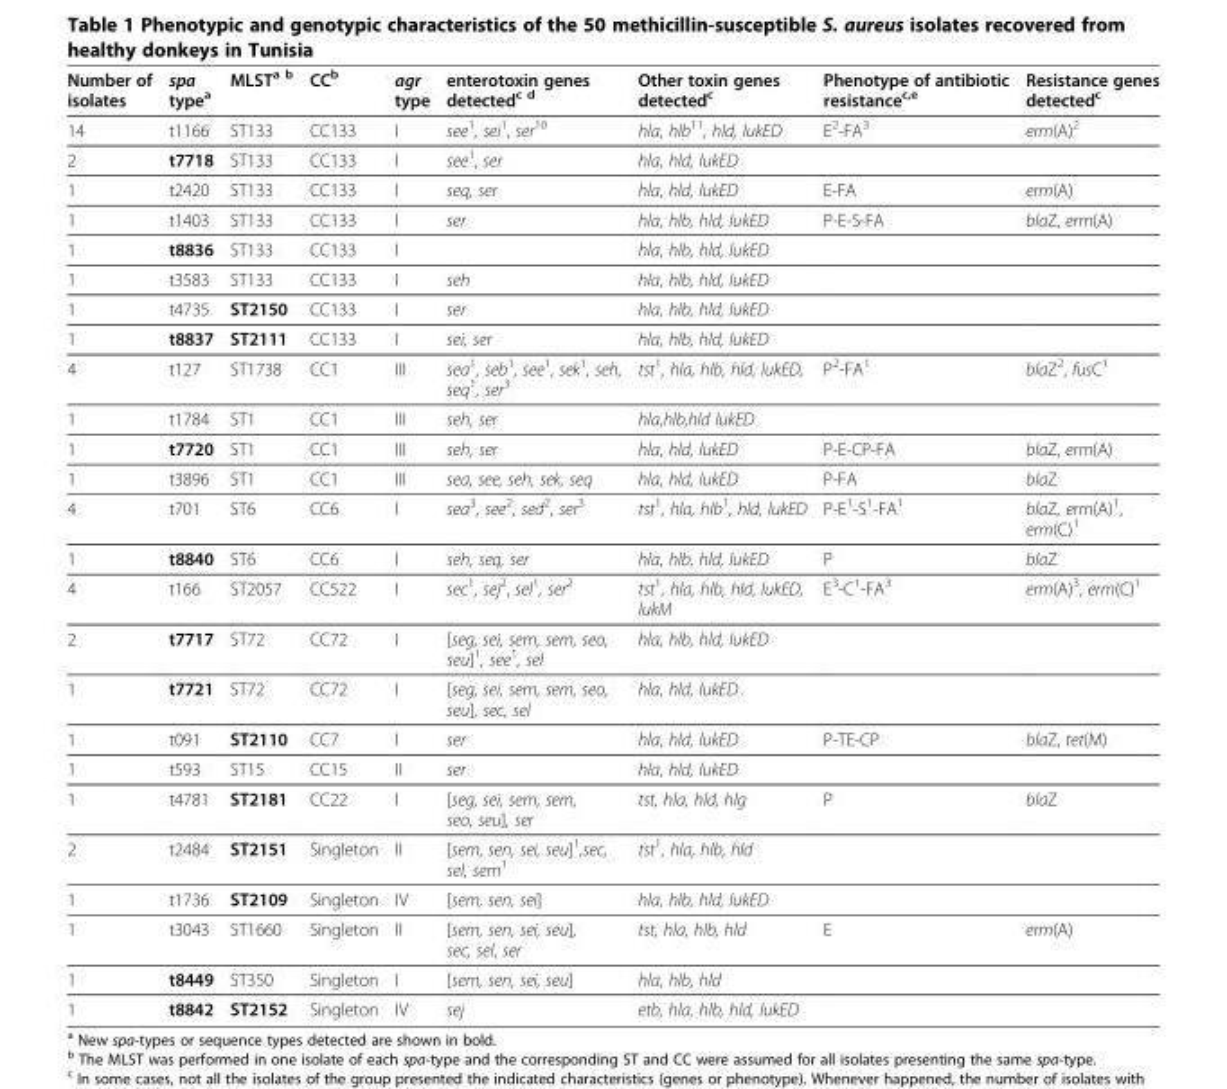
<table><thead><tr><td>Number of isolates</td><td>spa type<sup>a</sup></td><td>MLST<sup>a b</sup></td><td>CC<sup>b</sup></td><td>agr type</td><td>enterotoxin genes detected<sup>c d</sup></td><td>Other toxin genes detected<sup>c</sup></td><td>Phenotype of antibiotic resistance<sup>c,e</sup></td><td>Resistance genes detected<sup>c</sup></td></tr></thead><tbody><tr><td>14</td><td>t1166</td><td>ST133</td><td>CC133</td><td>I</td><td>see<sup>1</sup>, sei<sup>1</sup>, ser<sup>10</sup></td><td>hla, hlb<sup>11</sup>, hld, lukED</td><td>E<sup>2</sup>-FA<sup>3</sup></td><td>erm(A)<sup>2</sup></td></tr><tr><td>2</td><td>t7718</td><td>ST133</td><td>CC133</td><td>I</td><td>see<sup>1</sup>, ser</td><td>hla, hld, lukED</td><td></td><td></td></tr><tr><td>1</td><td>t2420</td><td>ST133</td><td>CC133</td><td>I</td><td>seq, ser</td><td>hla, hld, lukED</td><td>E-FA</td><td>erm(A)</td></tr><tr><td>1</td><td>t1403</td><td>ST133</td><td>CC133</td><td>I</td><td>ser</td><td>hla, hlb, hld, lukED</td><td>P-E-S-FA</td><td>blaZ, erm(A)</td></tr><tr><td>1</td><td>t8836</td><td>ST133</td><td>CC133</td><td>I</td><td></td><td>hla, hlb, hld, lukED</td><td></td><td></td></tr><tr><td>1</td><td>t3583</td><td>ST133</td><td>CC133</td><td>I</td><td>seh</td><td>hla, hlb, hld, lukED</td><td></td><td></td></tr><tr><td>1</td><td>t4735</td><td>ST2150</td><td>CC133</td><td>I</td><td>ser</td><td>hla, hlb, hld, lukED</td><td></td><td></td></tr><tr><td>1</td><td>t8837</td><td>ST2111</td><td>CC133</td><td>I</td><td>sei, ser</td><td>hla, hlb, hld, lukED</td><td></td><td></td></tr><tr><td>4</td><td>t127</td><td>ST1738</td><td>CC1</td><td>III</td><td>sea<sup>1</sup>, seb<sup>1</sup>, see<sup>1</sup>, sek<sup>1</sup>, seh, seq<sup>1</sup>, ser<sup>3</sup></td><td>tst<sup>1</sup>, hla, hlb, hld, lukED,</td><td>P<sup>2</sup>-FA<sup>1</sup></td><td>blaZ<sup>2</sup>, fusC<sup>1</sup></td></tr><tr><td>1</td><td>t1784</td><td>ST1</td><td>CC1</td><td>III</td><td>seh, ser</td><td>hla,hlb,hld lukED</td><td></td><td></td></tr><tr><td>1</td><td>t7720</td><td>ST1</td><td>CC1</td><td>III</td><td>seh, ser</td><td>hla, hld, lukED</td><td>P-E-CP-FA</td><td>blaZ, erm(A)</td></tr><tr><td>1</td><td>t3896</td><td>ST1</td><td>CC1</td><td>III</td><td>sea, see, seh, sek, seq</td><td>hla, hld, lukED</td><td>P-FA</td><td>blaZ</td></tr><tr><td>4</td><td>t701</td><td>ST6</td><td>CC6</td><td>I</td><td>sea<sup>3</sup>, see<sup>2</sup>, sed<sup>2</sup>, ser<sup>3</sup></td><td>tst<sup>1</sup>, hla, hlb<sup>1</sup>, hld, lukED</td><td>P-E<sup>1</sup>-S<sup>1</sup>-FA<sup>1</sup></td><td>blaZ, erm(A)<sup>1</sup>, erm(C)<sup>1</sup></td></tr><tr><td>1</td><td>t8840</td><td>ST6</td><td>CC6</td><td>I</td><td>seh, seq, ser</td><td>hla, hlb, hld, lukED</td><td>P</td><td>blaZ</td></tr><tr><td>4</td><td>t166</td><td>ST2057</td><td>CC522</td><td>I</td><td>sec<sup>1</sup>, sej<sup>2</sup>, sel<sup>1</sup>, ser<sup>2</sup></td><td>tst<sup>1</sup>, hla, hlb, hld, lukED, lukM</td><td>E<sup>3</sup>-C<sup>1</sup>-FA<sup>3</sup></td><td>erm(A)<sup>3</sup>, erm(C)<sup>1</sup></td></tr><tr><td>2</td><td>t7717</td><td>ST72</td><td>CC72</td><td>I</td><td>[seg, sei, sem, sem, seo, seu]<sup>1</sup>, see<sup>1</sup>, sel</td><td>hla, hlb, hld, lukED</td><td></td><td></td></tr><tr><td>1</td><td>t7721</td><td>ST72</td><td>CC72</td><td>I</td><td>[seg, sei, sem, sem, seo, seu], sec, sel</td><td>hla, hld, lukED</td><td></td><td></td></tr><tr><td>1</td><td>t091</td><td>ST2110</td><td>CC7</td><td>I</td><td>ser</td><td>hla, hld, lukED</td><td>P-TE-CP</td><td>blaZ, tet(M)</td></tr><tr><td>1</td><td>t593</td><td>ST15</td><td>CC15</td><td>II</td><td>ser</td><td>hla, hld, lukED</td><td></td><td></td></tr><tr><td>1</td><td>t4781</td><td>ST2181</td><td>CC22</td><td>I</td><td>[seg, sei, sem, sem, seo, seu], ser</td><td>tst, hla, hld, hlg</td><td>P</td><td>blaZ</td></tr><tr><td>2</td><td>t2484</td><td>ST2151</td><td>Singleton</td><td>II</td><td>[sem, sen, sei, seu]<sup>1</sup>,sec, sel, sem<sup>1</sup></td><td>tst<sup>1</sup>, hla, hlb, hld</td><td></td><td></td></tr><tr><td>1</td><td>t1736</td><td>ST2109</td><td>Singleton</td><td>IV</td><td>[sem, sen, sei]</td><td>hla, hlb, hld, lukED</td><td></td><td></td></tr><tr><td>1</td><td>t3043</td><td>ST1660</td><td>Singleton</td><td>II</td><td>[sem, sen, sei, seu], sec, sel, ser</td><td>tst, hla, hlb, hld</td><td>E</td><td>erm(A)</td></tr><tr><td>1</td><td>t8449</td><td>ST350</td><td>Singleton</td><td>I</td><td>[sem, sen, sei, seu]</td><td>hla, hlb, hld</td><td></td><td></td></tr><tr><td>1</td><td>t8842</td><td>ST2152</td><td>Singleton</td><td>IV</td><td>sej</td><td>etb, hla, hlb, hld, lukED</td><td></td><td></td></tr></tbody></table>